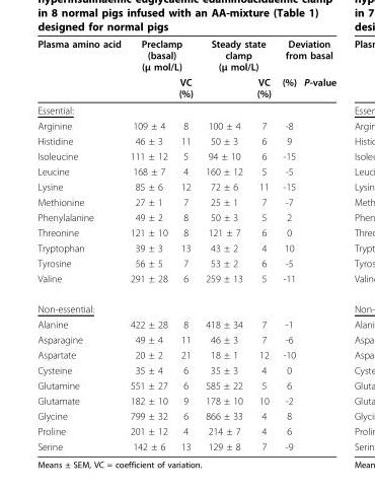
<table><thead><tr><td rowspan="2">Plasma amino acid</td><td colspan="2">Preclamp (basal) (μ mol/L)</td><td colspan="2">Steady state clamp (μ mol/L)</td><td colspan="2">Deviation from basal</td></tr><tr><td></td><td>VC (%)</td><td></td><td>VC (%)</td><td>(%)</td><td>P-value</td></tr></thead><tbody><tr><td colspan="7">Essential:</td></tr><tr><td>Arginine</td><td>109 ± 4</td><td>8</td><td>100 ± 4</td><td>7</td><td>-8</td><td></td></tr><tr><td>Histidine</td><td>46 ± 3</td><td>11</td><td>50 ± 3</td><td>6</td><td>9</td><td></td></tr><tr><td>Isoleucine</td><td>111 ± 12</td><td>5</td><td>94 ± 10</td><td>6</td><td>-15</td><td></td></tr><tr><td>Leucine</td><td>168 ± 7</td><td>4</td><td>160 ± 12</td><td>5</td><td>-5</td><td></td></tr><tr><td>Lysine</td><td>85 ± 6</td><td>12</td><td>72 ± 6</td><td>11</td><td>-15</td><td></td></tr><tr><td>Methionine</td><td>27 ± 1</td><td>7</td><td>25 ± 1</td><td>7</td><td>-7</td><td></td></tr><tr><td>Phenylalanine</td><td>49 ± 2</td><td>8</td><td>50 ± 3</td><td>5</td><td>2</td><td></td></tr><tr><td>Threonine</td><td>121 ± 10</td><td>8</td><td>121 ± 7</td><td>6</td><td>0</td><td></td></tr><tr><td>Tryptophan</td><td>39 ± 3</td><td>13</td><td>43 ± 2</td><td>4</td><td>10</td><td></td></tr><tr><td>Tyrosine</td><td>56 ± 5</td><td>7</td><td>53 ± 2</td><td>6</td><td>-5</td><td></td></tr><tr><td>Valine</td><td>291 ± 28</td><td>6</td><td>259 ± 13</td><td>5</td><td>-11</td><td></td></tr><tr><td colspan="7">Non-essential:</td></tr><tr><td>Alanine</td><td>422 ± 28</td><td>8</td><td>418 ± 34</td><td>7</td><td>-1</td><td></td></tr><tr><td>Asparagine</td><td>49 ± 4</td><td>11</td><td>46 ± 3</td><td>7</td><td>-6</td><td></td></tr><tr><td>Aspartate</td><td>20 ± 2</td><td>21</td><td>18 ± 1</td><td>12</td><td>-10</td><td></td></tr><tr><td>Cysteine</td><td>35 ± 4</td><td>6</td><td>35 ± 3</td><td>4</td><td>0</td><td></td></tr><tr><td>Glutamine</td><td>551 ± 27</td><td>6</td><td>585 ± 22</td><td>5</td><td>6</td><td></td></tr><tr><td>Glutamate</td><td>182 ± 10</td><td>9</td><td>178 ± 10</td><td>10</td><td>-2</td><td></td></tr><tr><td>Glycine</td><td>799 ± 32</td><td>6</td><td>866 ± 33</td><td>4</td><td>8</td><td></td></tr><tr><td>Proline</td><td>201 ± 12</td><td>4</td><td>214 ± 7</td><td>4</td><td>6</td><td></td></tr><tr><td>Serine</td><td>142 ± 6</td><td>13</td><td>129 ± 8</td><td>7</td><td>-9</td><td></td></tr></tbody></table>